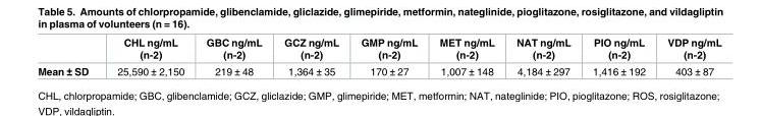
<table><thead><tr><td></td><td>CHL ng/mL (n-2)</td><td>GBC ng/mL (n-2)</td><td>GCZ ng/mL (n-2)</td><td>GMP ng/mL (n-2)</td><td>MET ng/mL (n-2)</td><td>NAT ng/mL (n-2)</td><td>PIO ng/mL (n-2)</td><td>VDP ng/mL (n-2)</td></tr></thead><tbody><tr><td>Mean ± SD</td><td>25,590 ± 2,150</td><td>219 ± 48</td><td>1,364 ± 35</td><td>170 ± 27</td><td>1,007 ± 148</td><td>4,184 ± 297</td><td>1,416 ± 192</td><td>403 ± 87</td></tr></tbody></table>